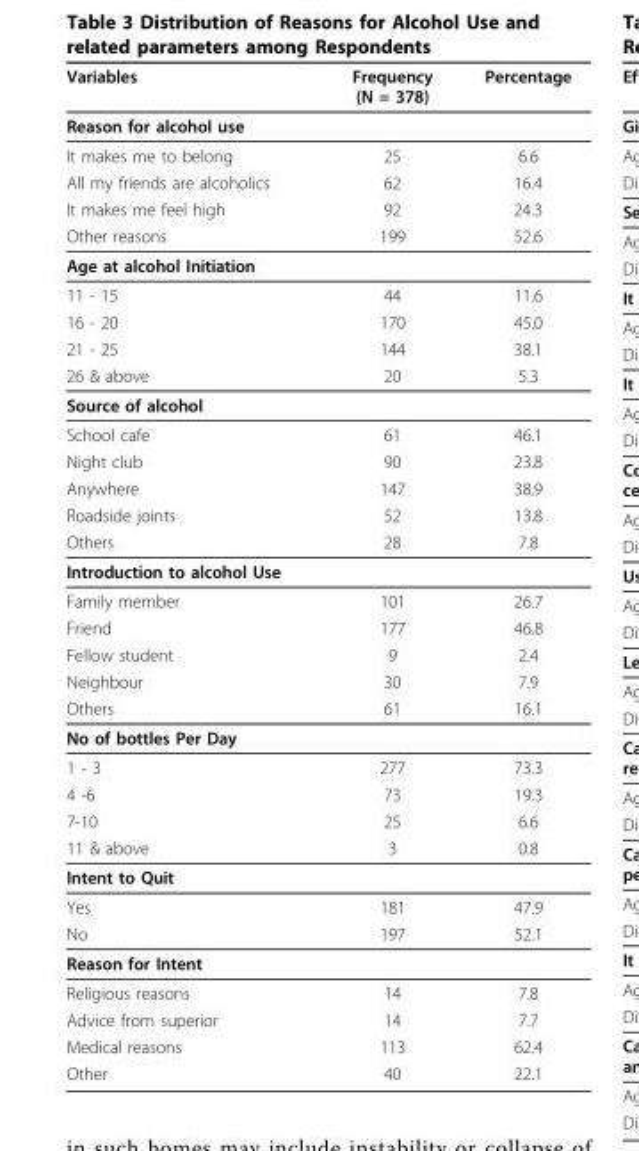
<table><thead><tr><td>Variables</td><td>Frequency (N = 378)</td><td>Percentage</td></tr></thead><tbody><tr><td colspan="3">Reason for alcohol use</td></tr><tr><td>It makes me to belong</td><td>25</td><td>6.6</td></tr><tr><td>All my friends are alcoholics</td><td>62</td><td>16.4</td></tr><tr><td>It makes me feel high</td><td>92</td><td>24.3</td></tr><tr><td>Other reasons</td><td>199</td><td>52.6</td></tr><tr><td colspan="3">Age at alcohol Initiation</td></tr><tr><td>11 - 15</td><td>44</td><td>11.6</td></tr><tr><td>16 - 20</td><td>170</td><td>45.0</td></tr><tr><td>21 - 25</td><td>144</td><td>38.1</td></tr><tr><td>26 &amp; above</td><td>20</td><td>5.3</td></tr><tr><td colspan="3">Source of alcohol</td></tr><tr><td>School cafe</td><td>61</td><td>46.1</td></tr><tr><td>Night club</td><td>90</td><td>23.8</td></tr><tr><td>Anywhere</td><td>147</td><td>38.9</td></tr><tr><td>Roadside joints</td><td>52</td><td>13.8</td></tr><tr><td>Others</td><td>28</td><td>7.8</td></tr><tr><td colspan="3">Introduction to alcohol Use</td></tr><tr><td>Family member</td><td>101</td><td>26.7</td></tr><tr><td>Friend</td><td>177</td><td>46.8</td></tr><tr><td>Fellow student</td><td>9</td><td>2.4</td></tr><tr><td>Neighbour</td><td>30</td><td>7.9</td></tr><tr><td>Others</td><td>61</td><td>16.1</td></tr><tr><td colspan="3">No of bottles Per Day</td></tr><tr><td>1 - 3</td><td>277</td><td>73.3</td></tr><tr><td>4 -6</td><td>73</td><td>19.3</td></tr><tr><td>7-10</td><td>25</td><td>6.6</td></tr><tr><td>11 &amp; above</td><td>3</td><td>0.8</td></tr><tr><td colspan="3">Intent to Quit</td></tr><tr><td>Yes</td><td>181</td><td>47.9</td></tr><tr><td>No</td><td>197</td><td>52.1</td></tr><tr><td colspan="3">Reason for Intent</td></tr><tr><td>Religious reasons</td><td>14</td><td>7.8</td></tr><tr><td>Advice from superior</td><td>14</td><td>7.7</td></tr><tr><td>Medical reasons</td><td>113</td><td>62.4</td></tr><tr><td>Other</td><td>40</td><td>22.1</td></tr></tbody></table>